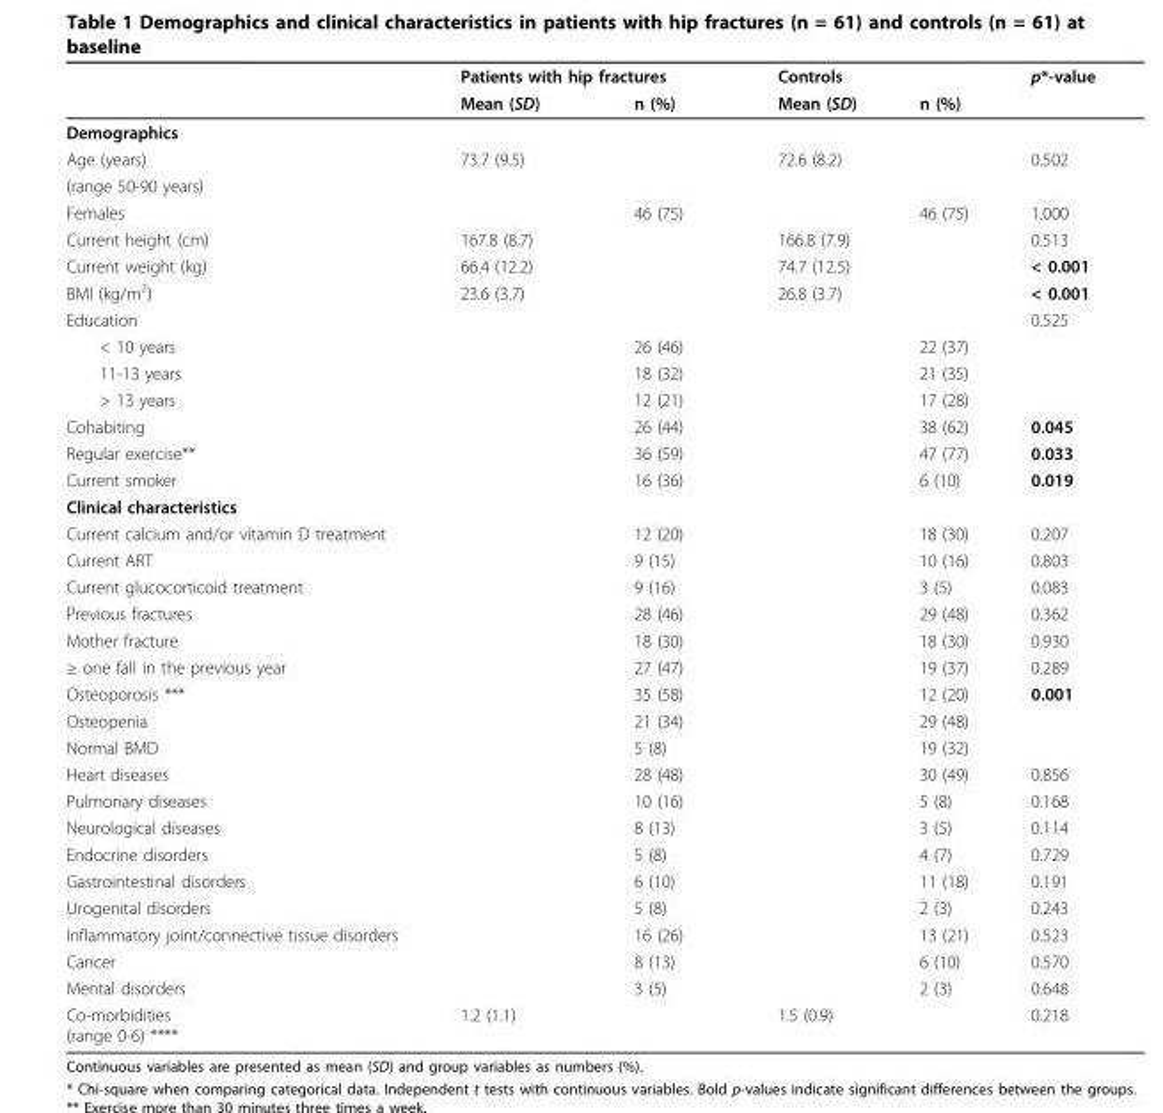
<table><thead><tr><td rowspan="2"></td><td colspan="2">Patients with hip fractures</td><td colspan="2">Controls</td><td rowspan="2">p*-value</td></tr><tr><td>Mean (SD)</td><td>n (%)</td><td>Mean (SD)</td><td>n (%)</td></tr></thead><tbody><tr><td colspan="6">Demographics</td></tr><tr><td>Age (years)</td><td>73.7 (9.5)</td><td></td><td>72.6 (8.2)</td><td></td><td>0.502</td></tr><tr><td colspan="6">(range 50-90 years)</td></tr><tr><td>Females</td><td></td><td>46 (75)</td><td></td><td>46 (75)</td><td>1.000</td></tr><tr><td>Current height (cm)</td><td>167.8 (8.7)</td><td></td><td>166.8 (7.9)</td><td></td><td>0.513</td></tr><tr><td>Current weight (kg)</td><td>66.4 (12.2)</td><td></td><td>74.7 (12.5)</td><td></td><td>&lt; 0.001</td></tr><tr><td>BMI (kg/m<sup>2</sup>)</td><td>23.6 (3.7)</td><td></td><td>26.8 (3.7)</td><td></td><td>&lt; 0.001</td></tr><tr><td>Education</td><td></td><td></td><td></td><td></td><td>0.525</td></tr><tr><td>&lt; 10 years</td><td></td><td>26 (46)</td><td></td><td>22 (37)</td><td></td></tr><tr><td>11-13 years</td><td></td><td>18 (32)</td><td></td><td>21 (35)</td><td></td></tr><tr><td>&gt; 13 years</td><td></td><td>12 (21)</td><td></td><td>17 (28)</td><td></td></tr><tr><td>Cohabiting</td><td></td><td>26 (44)</td><td></td><td>38 (62)</td><td>0.045</td></tr><tr><td>Regular exercise**</td><td></td><td>36 (59)</td><td></td><td>47 (77)</td><td>0.033</td></tr><tr><td>Current smoker</td><td></td><td>16 (36)</td><td></td><td>6 (10)</td><td>0.019</td></tr><tr><td colspan="6">Clinical characteristics</td></tr><tr><td>Current calcium and/or vitamin D treatment</td><td></td><td>12 (20)</td><td></td><td>18 (30)</td><td>0.207</td></tr><tr><td>Current ART</td><td></td><td>9 (15)</td><td></td><td>10 (16)</td><td>0.803</td></tr><tr><td>Current glucocorticoid treatment</td><td></td><td>9 (16)</td><td></td><td>3 (5)</td><td>0.083</td></tr><tr><td>Previous fractures</td><td></td><td>28 (46)</td><td></td><td>29 (48)</td><td>0.362</td></tr><tr><td>Mother fracture</td><td></td><td>18 (30)</td><td></td><td>18 (30)</td><td>0.930</td></tr><tr><td>≥ one fall in the previous year</td><td></td><td>27 (47)</td><td></td><td>19 (37)</td><td>0.289</td></tr><tr><td>Osteoporosis ***</td><td></td><td>35 (58)</td><td></td><td>12 (20)</td><td>0.001</td></tr><tr><td>Osteopenia</td><td></td><td>21 (34)</td><td></td><td>29 (48)</td><td></td></tr><tr><td>Normal BMD</td><td></td><td>5 (8)</td><td></td><td>19 (32)</td><td></td></tr><tr><td>Heart diseases</td><td></td><td>28 (48)</td><td></td><td>30 (49)</td><td>0.856</td></tr><tr><td>Pulmonary diseases</td><td></td><td>10 (16)</td><td></td><td>5 (8)</td><td>0.168</td></tr><tr><td>Neurological diseases</td><td></td><td>8 (13)</td><td></td><td>3 (5)</td><td>0.114</td></tr><tr><td>Endocrine disorders</td><td></td><td>5 (8)</td><td></td><td>4 (7)</td><td>0.729</td></tr><tr><td>Gastrointestinal disorders</td><td></td><td>6 (10)</td><td></td><td>11 (18)</td><td>0.191</td></tr><tr><td>Urogenital disorders</td><td></td><td>5 (8)</td><td></td><td>2 (3)</td><td>0.243</td></tr><tr><td>Inflammatory joint/connective tissue disorders</td><td></td><td>16 (26)</td><td></td><td>13 (21)</td><td>0.523</td></tr><tr><td>Cancer</td><td></td><td>8 (13)</td><td></td><td>6 (10)</td><td>0.570</td></tr><tr><td>Mental disorders</td><td></td><td>3 (5)</td><td></td><td>2 (3)</td><td>0.648</td></tr><tr><td>Co-morbidities (range 0-6) ****</td><td>1.2 (1.1)</td><td></td><td>1.5 (0.9)</td><td></td><td>0.218</td></tr></tbody></table>